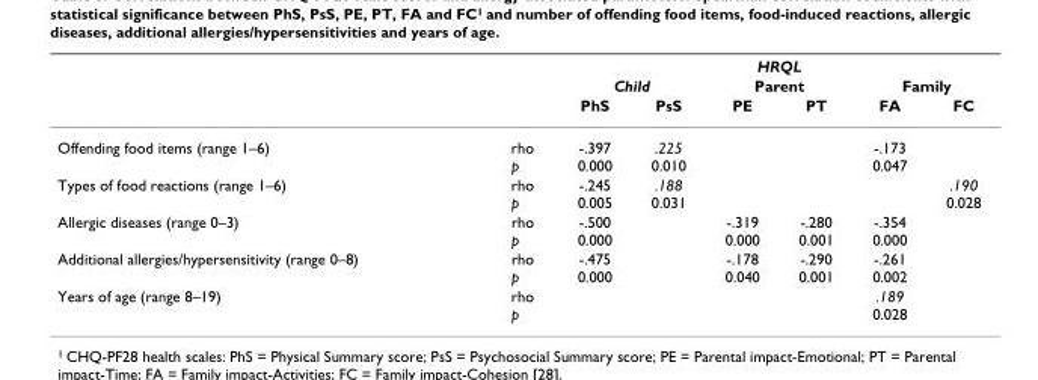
<table><thead><tr><td rowspan="3"></td><td rowspan="3"></td><td colspan="6">HRQL</td></tr><tr><td colspan="2">Child</td><td colspan="2">Parent</td><td colspan="2">Family</td></tr><tr><td>PhS</td><td>PsS</td><td>PE</td><td>PT</td><td>FA</td><td>FC</td></tr></thead><tbody><tr><td>Offending food items (range 1–6)</td><td>rho p</td><td>-.397 0.000</td><td>.225 0.010</td><td></td><td></td><td>-.173 0.047</td><td></td></tr><tr><td>Types of food reactions (range 1–6)</td><td>rho p</td><td>-.245 0.005</td><td>.188 0.031</td><td></td><td></td><td></td><td>.190 0.028</td></tr><tr><td>Allergic diseases (range 0–3)</td><td>rho p</td><td>-.500 0.000</td><td></td><td>-.319 0.000</td><td>-.280 0.001</td><td>-.354 0.000</td><td></td></tr><tr><td>Additional allergies/hypersensitivity (range 0–8)</td><td>rho p</td><td>-.475 0.000</td><td></td><td>-.178 0.040</td><td>-.290 0.001</td><td>-.261 0.002</td><td></td></tr><tr><td>Years of age (range 8–19)</td><td>rho p</td><td></td><td></td><td></td><td></td><td>.189 0.028</td><td></td></tr></tbody></table>